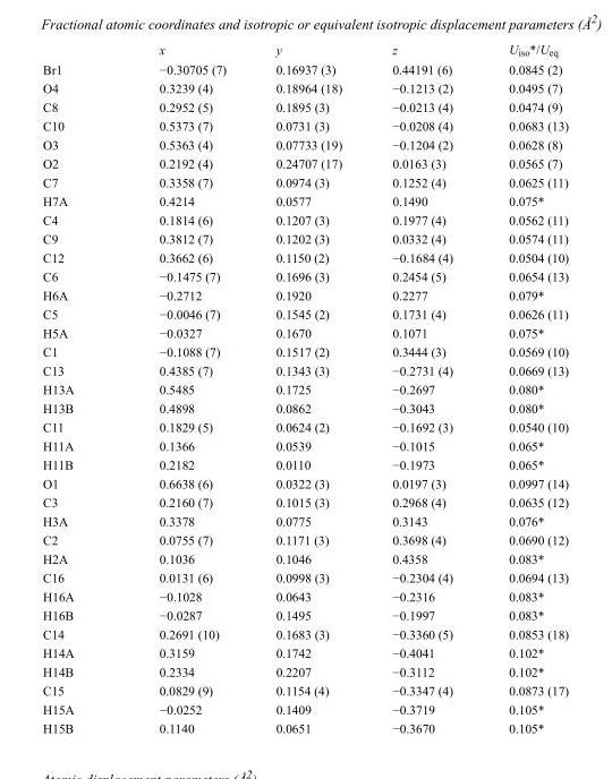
<table><thead><tr><td></td><td>x</td><td>y</td><td>z</td><td>U<sub>iso</sub>*/U<sub>eq</sub></td></tr></thead><tbody><tr><td>Br1</td><td>−0.30705 (7)</td><td>0.16937 (3)</td><td>0.44191 (6)</td><td>0.0845 (2)</td></tr><tr><td>O4</td><td>0.3239 (4)</td><td>0.18964 (18)</td><td>−0.1213 (2)</td><td>0.0495 (7)</td></tr><tr><td>C8</td><td>0.2952 (5)</td><td>0.1895 (3)</td><td>−0.0213 (4)</td><td>0.0474 (9)</td></tr><tr><td>C10</td><td>0.5373 (7)</td><td>0.0731 (3)</td><td>−0.0208 (4)</td><td>0.0683 (13)</td></tr><tr><td>O3</td><td>0.5363 (4)</td><td>0.07733 (19)</td><td>−0.1204 (2)</td><td>0.0628 (8)</td></tr><tr><td>O2</td><td>0.2192 (4)</td><td>0.24707 (17)</td><td>0.0163 (3)</td><td>0.0565 (7)</td></tr><tr><td>C7</td><td>0.3358 (7)</td><td>0.0974 (3)</td><td>0.1252 (4)</td><td>0.0625 (11)</td></tr><tr><td>H7A</td><td>0.4214</td><td>0.0577</td><td>0.1490</td><td>0.075*</td></tr><tr><td>C4</td><td>0.1814 (6)</td><td>0.1207 (3)</td><td>0.1977 (4)</td><td>0.0562 (11)</td></tr><tr><td>C9</td><td>0.3812 (7)</td><td>0.1202 (3)</td><td>0.0332 (4)</td><td>0.0574 (11)</td></tr><tr><td>C12</td><td>0.3662 (6)</td><td>0.1150 (2)</td><td>−0.1684 (4)</td><td>0.0504 (10)</td></tr><tr><td>C6</td><td>−0.1475 (7)</td><td>0.1696 (3)</td><td>0.2454 (5)</td><td>0.0654 (13)</td></tr><tr><td>H6A</td><td>−0.2712</td><td>0.1920</td><td>0.2277</td><td>0.079*</td></tr><tr><td>C5</td><td>−0.0046 (7)</td><td>0.1545 (2)</td><td>0.1731 (4)</td><td>0.0626 (11)</td></tr><tr><td>H5A</td><td>−0.0327</td><td>0.1670</td><td>0.1071</td><td>0.075*</td></tr><tr><td>C1</td><td>−0.1088 (7)</td><td>0.1517 (2)</td><td>0.3444 (3)</td><td>0.0569 (10)</td></tr><tr><td>C13</td><td>0.4385 (7)</td><td>0.1343 (3)</td><td>−0.2731 (4)</td><td>0.0669 (13)</td></tr><tr><td>H13A</td><td>0.5485</td><td>0.1725</td><td>−0.2697</td><td>0.080*</td></tr><tr><td>H13B</td><td>0.4898</td><td>0.0862</td><td>−0.3043</td><td>0.080*</td></tr><tr><td>C11</td><td>0.1829 (5)</td><td>0.0624 (2)</td><td>−0.1692 (3)</td><td>0.0540 (10)</td></tr><tr><td>H11A</td><td>0.1366</td><td>0.0539</td><td>−0.1015</td><td>0.065*</td></tr><tr><td>H11B</td><td>0.2182</td><td>0.0110</td><td>−0.1973</td><td>0.065*</td></tr><tr><td>O1</td><td>0.6638 (6)</td><td>0.0322 (3)</td><td>0.0197 (3)</td><td>0.0997 (14)</td></tr><tr><td>C3</td><td>0.2160 (7)</td><td>0.1015 (3)</td><td>0.2968 (4)</td><td>0.0635 (12)</td></tr><tr><td>H3A</td><td>0.3378</td><td>0.0775</td><td>0.3143</td><td>0.076*</td></tr><tr><td>C2</td><td>0.0755 (7)</td><td>0.1171 (3)</td><td>0.3698 (4)</td><td>0.0690 (12)</td></tr><tr><td>H2A</td><td>0.1036</td><td>0.1046</td><td>0.4358</td><td>0.083*</td></tr><tr><td>C16</td><td>0.0131 (6)</td><td>0.0998 (3)</td><td>−0.2304 (4)</td><td>0.0694 (13)</td></tr><tr><td>H16A</td><td>−0.1028</td><td>0.0643</td><td>−0.2316</td><td>0.083*</td></tr><tr><td>H16B</td><td>−0.0287</td><td>0.1495</td><td>−0.1997</td><td>0.083*</td></tr><tr><td>C14</td><td>0.2691 (10)</td><td>0.1683 (3)</td><td>−0.3360 (5)</td><td>0.0853 (18)</td></tr><tr><td>H14A</td><td>0.3159</td><td>0.1742</td><td>−0.4041</td><td>0.102*</td></tr><tr><td>H14B</td><td>0.2334</td><td>0.2207</td><td>−0.3112</td><td>0.102*</td></tr><tr><td>C15</td><td>0.0829 (9)</td><td>0.1154 (4)</td><td>−0.3347 (4)</td><td>0.0873 (17)</td></tr><tr><td>H15A</td><td>−0.0252</td><td>0.1409</td><td>−0.3719</td><td>0.105*</td></tr><tr><td>H15B</td><td>0.1140</td><td>0.0651</td><td>−0.3670</td><td>0.105*</td></tr></tbody></table>